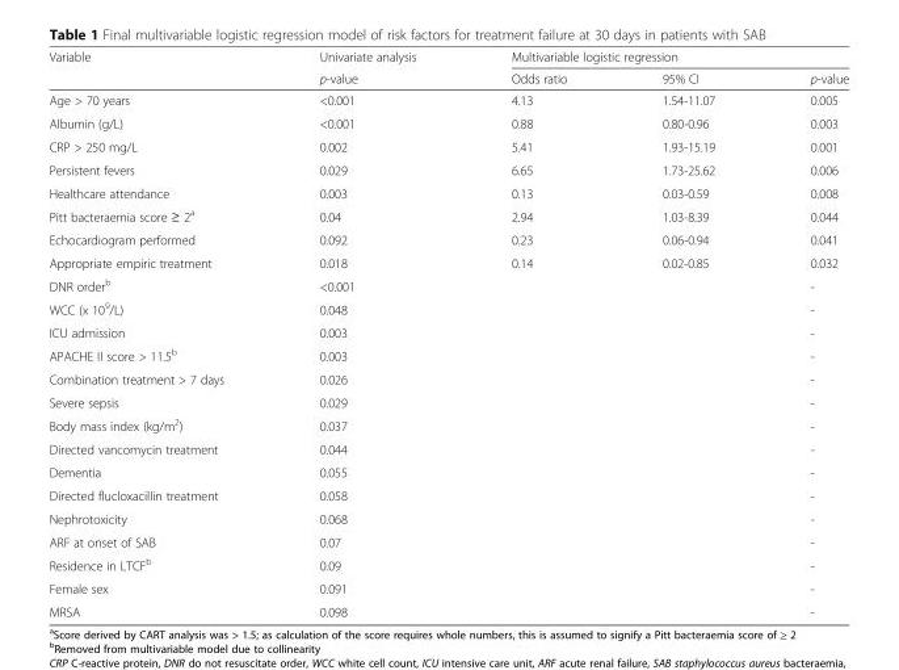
<table><thead><tr><td rowspan="2">Variable</td><td rowspan="2">Univariate analysis p-value</td><td colspan="3">Multivariable logistic regression</td></tr><tr><td>Odds ratio</td><td>95% CI</td><td>p-value</td></tr></thead><tbody><tr><td>Age &gt; 70 years</td><td>&lt;0.001</td><td>4.13</td><td>1.54-11.07</td><td>0.005</td></tr><tr><td>Albumin (g/L)</td><td>&lt;0.001</td><td>0.88</td><td>0.80-0.96</td><td>0.003</td></tr><tr><td>CRP &gt; 250 mg/L</td><td>0.002</td><td>5.41</td><td>1.93-15.19</td><td>0.001</td></tr><tr><td>Persistent fevers</td><td>0.029</td><td>6.65</td><td>1.73-25.62</td><td>0.006</td></tr><tr><td>Healthcare attendance</td><td>0.003</td><td>0.13</td><td>0.03-0.59</td><td>0.008</td></tr><tr><td>Pitt bacteraemia score ≥ 2<sup>a</sup></td><td>0.04</td><td>2.94</td><td>1.03-8.39</td><td>0.044</td></tr><tr><td>Echocardiogram performed</td><td>0.092</td><td>0.23</td><td>0.06-0.94</td><td>0.041</td></tr><tr><td>Appropriate empiric treatment</td><td>0.018</td><td>0.14</td><td>0.02-0.85</td><td>0.032</td></tr><tr><td>DNR order<sup>b</sup></td><td>&lt;0.001</td><td></td><td></td><td>-</td></tr><tr><td>WCC (x 10<sup>9</sup>/L)</td><td>0.048</td><td></td><td></td><td>-</td></tr><tr><td>ICU admission</td><td>0.003</td><td></td><td></td><td>-</td></tr><tr><td>APACHE II score &gt; 11.5<sup>b</sup></td><td>0.003</td><td></td><td></td><td>-</td></tr><tr><td>Combination treatment &gt; 7 days</td><td>0.026</td><td></td><td></td><td>-</td></tr><tr><td>Severe sepsis</td><td>0.029</td><td></td><td></td><td>-</td></tr><tr><td>Body mass index (kg/m<sup>2</sup>)</td><td>0.037</td><td></td><td></td><td>-</td></tr><tr><td>Directed vancomycin treatment</td><td>0.044</td><td></td><td></td><td>-</td></tr><tr><td>Dementia</td><td>0.055</td><td></td><td></td><td>-</td></tr><tr><td>Directed flucloxacillin treatment</td><td>0.058</td><td></td><td></td><td>-</td></tr><tr><td>Nephrotoxicity</td><td>0.068</td><td></td><td></td><td>-</td></tr><tr><td>ARF at onset of SAB</td><td>0.07</td><td></td><td></td><td>-</td></tr><tr><td>Residence in LTCF<sup>b</sup></td><td>0.09</td><td></td><td></td><td>-</td></tr><tr><td>Female sex</td><td>0.091</td><td></td><td></td><td>-</td></tr><tr><td>MRSA</td><td>0.098</td><td></td><td></td><td>-</td></tr></tbody></table>